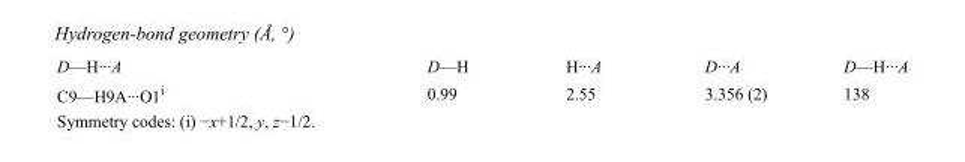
<table><tbody><tr><td>D—H···A</td><td>D—H</td><td>H···A</td><td>D···A</td><td>D—H···A</td></tr><tr><td>C9—H9A···O1<sup>i</sup></td><td>0.99</td><td>2.55</td><td>3.356 (2)</td><td>138</td></tr></tbody></table>